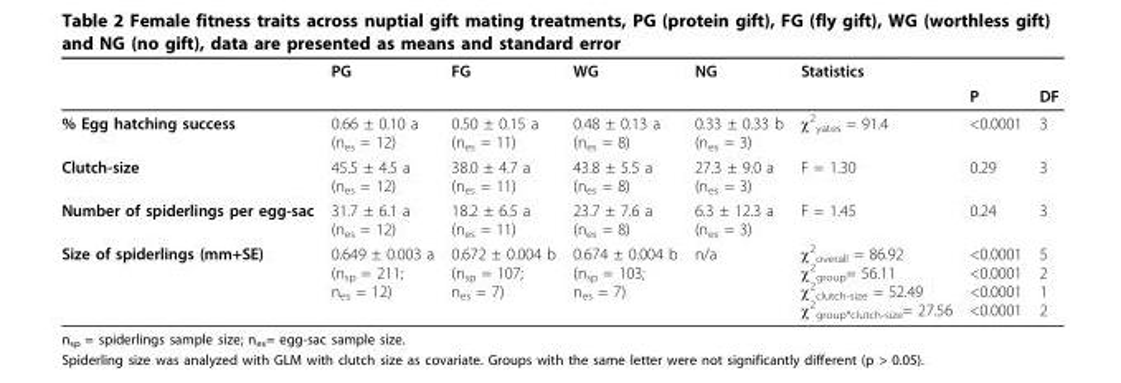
<table><thead><tr><td rowspan="2"></td><td rowspan="2">PG</td><td rowspan="2">FG</td><td rowspan="2">WG</td><td rowspan="2">NG</td><td colspan="3">Statistics</td></tr><tr><td></td><td>P</td><td>DF</td></tr></thead><tbody><tr><td>% Egg hatching success</td><td>0.66 ± 0.10 a (n<sub>es</sub> = 12)</td><td>0.50 ± 0.15 a (n<sub>es</sub> = 11)</td><td>0.48 ± 0.13 a (n<sub>es</sub> = 8)</td><td>0.33 ± 0.33 b (n<sub>es</sub> = 3)</td><td>χ<sup>2</sup> <sub>yates</sub> = 91.4</td><td>&lt;0.0001</td><td>3</td></tr><tr><td>Clutch-size</td><td>45.5 ± 4.5 a (n<sub>es</sub> = 12)</td><td>38.0 ± 4.7 a (n<sub>es</sub> = 11)</td><td>43.8 ± 5.5 a (n<sub>es</sub> = 8)</td><td>27.3 ± 9.0 a (n<sub>es</sub> = 3)</td><td>F = 1.30</td><td>0.29</td><td>3</td></tr><tr><td>Number of spiderlings per egg-sac</td><td>31.7 ± 6.1 a (n<sub>es</sub> = 12)</td><td>18.2 ± 6.5 a (n<sub>es</sub> = 11)</td><td>23.7 ± 7.6 a (n<sub>es</sub> = 8)</td><td>6.3 ± 12.3 a (n<sub>es</sub> = 3)</td><td>F = 1.45</td><td>0.24</td><td>3</td></tr><tr><td>Size of spiderlings (mm+SE)</td><td>0.649 ± 0.003 a (n<sub>sp</sub> = 211; n<sub>es</sub> = 12)</td><td>0.672 ± 0.004 b (n<sub>sp</sub> = 107; n<sub>es</sub> = 7)</td><td>0.674 ± 0.004 b (n<sub>sp</sub> = 103; n<sub>es</sub> = 7)</td><td>n/a</td><td>χ<sup>2</sup> <sub>overall</sub> = 86.92 χ<sup>2</sup> <sub>group</sub>= 56.11 χ<sup>2</sup> <sub>clutch-size</sub> = 52.49 χ<sup>2</sup> <sub>group*clutch-size</sub>= 27.56</td><td>&lt;0.0001 &lt;0.0001 &lt;0.0001 &lt;0.0001</td><td>5 2 1 2</td></tr></tbody></table>